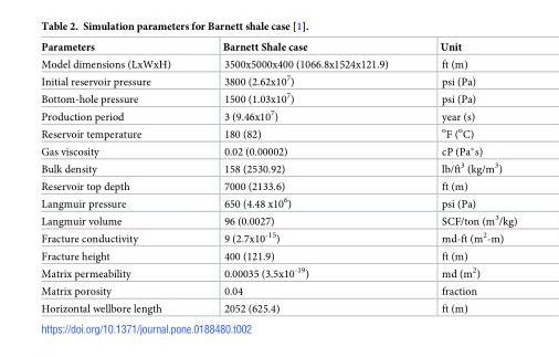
<table><thead><tr><td>Parameters</td><td>Barnett Shale case</td><td>Unit</td></tr></thead><tbody><tr><td>Model dimensions (LxWxH)</td><td>3500x5000x400 (1066.8x1524x121.9)</td><td>ft (m)</td></tr><tr><td>Initial reservoir pressure</td><td>3800 (2.62x10<sup>7</sup>)</td><td>psi (Pa)</td></tr><tr><td>Bottom-hole pressure</td><td>1500 (1.03x10<sup>7</sup>)</td><td>psi (Pa)</td></tr><tr><td>Production period</td><td>3 (9.46x10<sup>7</sup>)</td><td>year (s)</td></tr><tr><td>Reservoir temperature</td><td>180 (82)</td><td><sup>o</sup>F (<sup>o</sup>C)</td></tr><tr><td>Gas viscosity</td><td>0.02 (0.00002)</td><td>cP (Pa*s)</td></tr><tr><td>Bulk density</td><td>158 (2530.92)</td><td>lb/ft<sup>3</sup> (kg/m<sup>3</sup>)</td></tr><tr><td>Reservoir top depth</td><td>7000 (2133.6)</td><td>ft (m)</td></tr><tr><td>Langmuir pressure</td><td>650 (4.48 x10<sup>6</sup>)</td><td>psi (Pa)</td></tr><tr><td>Langmuir volume</td><td>96 (0.0027)</td><td>SCF/ton (m<sup>3</sup>/kg)</td></tr><tr><td>Fracture conductivity</td><td>9 (2.7x10<sup>-15</sup>)</td><td>md-ft (m<sup>2</sup>-m)</td></tr><tr><td>Fracture height</td><td>400 (121.9)</td><td>ft (m)</td></tr><tr><td>Matrix permeability</td><td>0.00035 (3.5x10<sup>-19</sup>)</td><td>md (m<sup>2</sup>)</td></tr><tr><td>Matrix porosity</td><td>0.04</td><td>fraction</td></tr><tr><td>Horizontal wellbore length</td><td>2052 (625.4)</td><td>ft (m)</td></tr></tbody></table>